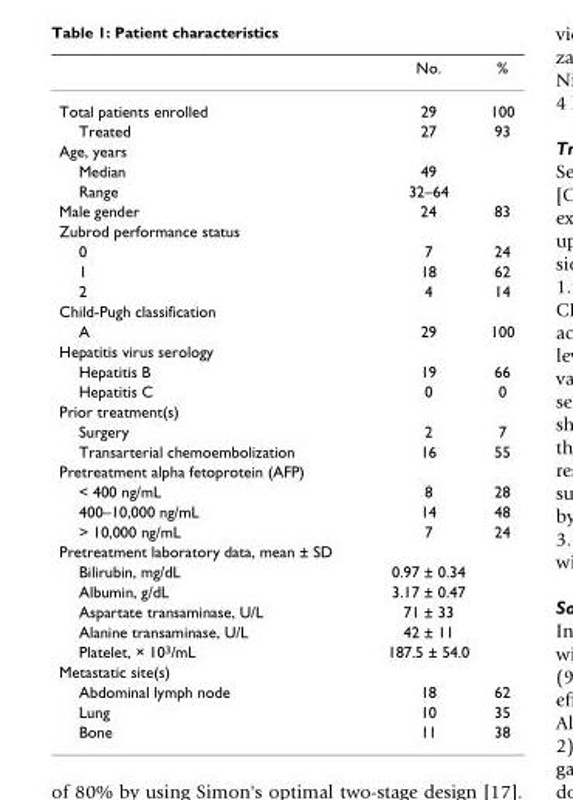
<table><thead><tr><td></td><td>No.</td><td>%</td></tr></thead><tbody><tr><td>Total patients enrolled</td><td>29</td><td>100</td></tr><tr><td>Treated</td><td>27</td><td>93</td></tr><tr><td colspan="3">Age, years</td></tr><tr><td>Median</td><td>49</td><td></td></tr><tr><td>Range</td><td>32–64</td><td></td></tr><tr><td>Male gender</td><td>24</td><td>83</td></tr><tr><td colspan="3">Zubrod performance status</td></tr><tr><td>0</td><td>7</td><td>24</td></tr><tr><td>1</td><td>18</td><td>62</td></tr><tr><td>2</td><td>4</td><td>14</td></tr><tr><td colspan="3">Child-Pugh classification</td></tr><tr><td>A</td><td>29</td><td>100</td></tr><tr><td colspan="3">Hepatitis virus serology</td></tr><tr><td>Hepatitis B</td><td>19</td><td>66</td></tr><tr><td>Hepatitis C</td><td>0</td><td>0</td></tr><tr><td colspan="3">Prior treatment(s)</td></tr><tr><td>Surgery</td><td>2</td><td>7</td></tr><tr><td>Transarterial chemoembolization</td><td>16</td><td>55</td></tr><tr><td colspan="3">Pretreatment alpha fetoprotein (AFP)</td></tr><tr><td>&lt; 400 ng/mL</td><td>8</td><td>28</td></tr><tr><td>400–10,000 ng/mL</td><td>14</td><td>48</td></tr><tr><td>&gt; 10,000 ng/mL</td><td>7</td><td>24</td></tr><tr><td colspan="3">Pretreatment laboratory data, mean ± SD</td></tr><tr><td>Bilirubin, mg/dL</td><td>0.97 ± 0.34</td><td></td></tr><tr><td>Albumin, g/dL</td><td>3.17 ± 0.47</td><td></td></tr><tr><td>Aspartate transaminase, U/L</td><td>71 ± 33</td><td></td></tr><tr><td>Alanine transaminase, U/L</td><td>42 ± 11</td><td></td></tr><tr><td>Platelet, × 103/mL</td><td>187.5 ± 54.0</td><td></td></tr><tr><td colspan="3">Metastatic site(s)</td></tr><tr><td>Abdominal lymph node</td><td>18</td><td>62</td></tr><tr><td>Lung</td><td>10</td><td>35</td></tr><tr><td>Bone</td><td>11</td><td>38</td></tr></tbody></table>